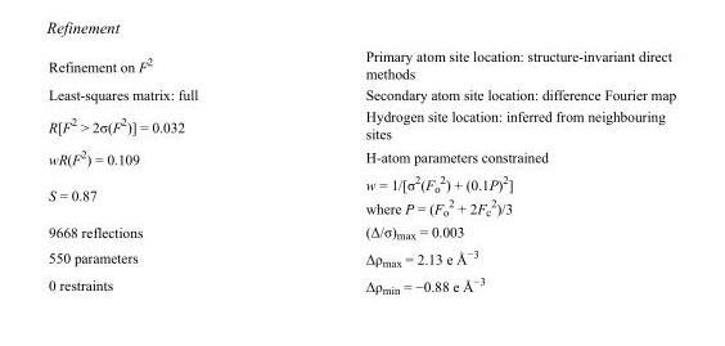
<table><tbody><tr><td>Refinement on F<sup>2</sup></td><td>Primary atom site location: structure-invariant direct methods</td></tr><tr><td>Least-squares matrix: full</td><td>Secondary atom site location: difference Fourier map</td></tr><tr><td>R[F<sup>2</sup> &gt; 2σ(F<sup>2</sup>)] = 0.032</td><td>Hydrogen site location: inferred from neighbouring sites</td></tr><tr><td>wR(F<sup>2</sup>) = 0.109</td><td>H-atom parameters constrained</td></tr><tr><td>S = 0.87</td><td>w = 1/[σ<sup>2</sup>(F<sub>o</sub> <sup>2</sup>) + (0.1P)<sup>2</sup>] where P = (F<sub>o</sub> <sup>2</sup> + 2F<sub>c</sub> <sup>2</sup>)/3</td></tr><tr><td>9668 reflections</td><td>(Δ/σ)<sub>max</sub> = 0.003</td></tr><tr><td>550 parameters</td><td>Δρ<sub>max</sub> = 2.13 e Å<sup>−3</sup></td></tr><tr><td>0 restraints</td><td>Δρ<sub>min</sub> = −0.88 e Å<sup>−3</sup></td></tr></tbody></table>